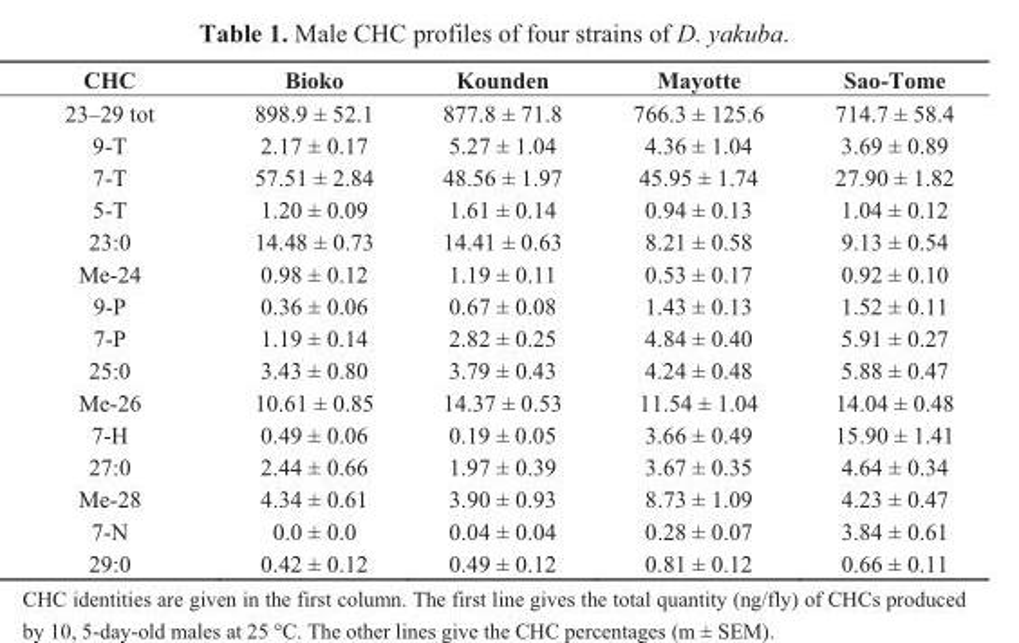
<table><thead><tr><td>CHC</td><td>Bioko</td><td>Kounden</td><td>Mayotte</td><td>Sao-Tome</td></tr></thead><tbody><tr><td>23–29 tot</td><td>898.9 ± 52.1</td><td>877.8 ± 71.8</td><td>766.3 ± 125.6</td><td>714.7 ± 58.4</td></tr><tr><td>9-T</td><td>2.17 ± 0.17</td><td>5.27 ± 1.04</td><td>4.36 ± 1.04</td><td>3.69 ± 0.89</td></tr><tr><td>7-T</td><td>57.51 ± 2.84</td><td>48.56 ± 1.97</td><td>45.95 ± 1.74</td><td>27.90 ± 1.82</td></tr><tr><td>5-T</td><td>1.20 ± 0.09</td><td>1.61 ± 0.14</td><td>0.94 ± 0.13</td><td>1.04 ± 0.12</td></tr><tr><td>23:0</td><td>14.48 ± 0.73</td><td>14.41 ± 0.63</td><td>8.21 ± 0.58</td><td>9.13 ± 0.54</td></tr><tr><td>Me-24</td><td>0.98 ± 0.12</td><td>1.19 ± 0.11</td><td>0.53 ± 0.17</td><td>0.92 ± 0.10</td></tr><tr><td>9-P</td><td>0.36 ± 0.06</td><td>0.67 ± 0.08</td><td>1.43 ± 0.13</td><td>1.52 ± 0.11</td></tr><tr><td>7-P</td><td>1.19 ± 0.14</td><td>2.82 ± 0.25</td><td>4.84 ± 0.40</td><td>5.91 ± 0.27</td></tr><tr><td>25:0</td><td>3.43 ± 0.80</td><td>3.79 ± 0.43</td><td>4.24 ± 0.48</td><td>5.88 ± 0.47</td></tr><tr><td>Me-26</td><td>10.61 ± 0.85</td><td>14.37 ± 0.53</td><td>11.54 ± 1.04</td><td>14.04 ± 0.48</td></tr><tr><td>7-H</td><td>0.49 ± 0.06</td><td>0.19 ± 0.05</td><td>3.66 ± 0.49</td><td>15.90 ± 1.41</td></tr><tr><td>27:0</td><td>2.44 ± 0.66</td><td>1.97 ± 0.39</td><td>3.67 ± 0.35</td><td>4.64 ± 0.34</td></tr><tr><td>Me-28</td><td>4.34 ± 0.61</td><td>3.90 ± 0.93</td><td>8.73 ± 1.09</td><td>4.23 ± 0.47</td></tr><tr><td>7-N</td><td>0.0 ± 0.0</td><td>0.04 ± 0.04</td><td>0.28 ± 0.07</td><td>3.84 ± 0.61</td></tr><tr><td>29:0</td><td>0.42 ± 0.12</td><td>0.49 ± 0.12</td><td>0.81 ± 0.12</td><td>0.66 ± 0.11</td></tr></tbody></table>